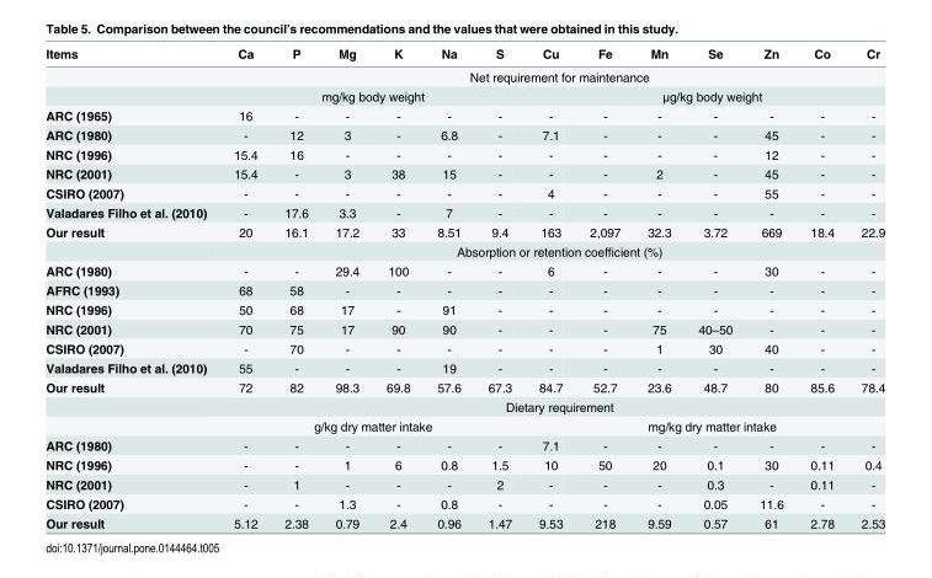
<table><thead><tr><td>Items</td><td>Ca</td><td>P</td><td>Mg</td><td>K</td><td>Na</td><td>S</td><td>Cu</td><td>Fe</td><td>Mn</td><td>Se</td><td>Zn</td><td>Co</td><td>Cr</td></tr></thead><tbody><tr><td></td><td colspan="13">Net requirement for maintenance</td></tr><tr><td></td><td colspan="6">mg/kg body weight</td><td colspan="7">μg/kg body weight</td></tr><tr><td>ARC (1965)</td><td>16</td><td>-</td><td>-</td><td>-</td><td>-</td><td>-</td><td>-</td><td>-</td><td>-</td><td>-</td><td>-</td><td>-</td><td>-</td></tr><tr><td>ARC (1980)</td><td>-</td><td>12</td><td>3</td><td>-</td><td>6.8</td><td>-</td><td>7.1</td><td>-</td><td>-</td><td>-</td><td>45</td><td>-</td><td>-</td></tr><tr><td>NRC (1996)</td><td>15.4</td><td>16</td><td>-</td><td>-</td><td>-</td><td>-</td><td>-</td><td>-</td><td>-</td><td>-</td><td>12</td><td>-</td><td>-</td></tr><tr><td>NRC (2001)</td><td>15.4</td><td>-</td><td>3</td><td>38</td><td>15</td><td>-</td><td>-</td><td>-</td><td>2</td><td>-</td><td>45</td><td>-</td><td>-</td></tr><tr><td>CSIRO (2007)</td><td>-</td><td>-</td><td>-</td><td>-</td><td>-</td><td>-</td><td>4</td><td>-</td><td>-</td><td>-</td><td>55</td><td>-</td><td>-</td></tr><tr><td>Valadares Filho et al. (2010)</td><td>-</td><td>17.6</td><td>3.3</td><td>-</td><td>7</td><td>-</td><td>-</td><td>-</td><td>-</td><td>-</td><td>-</td><td>-</td><td>-</td></tr><tr><td rowspan="2">Our result</td><td>20</td><td>16.1</td><td>17.2</td><td>33</td><td>8.51</td><td>9.4</td><td>163</td><td>2,097</td><td>32.3</td><td>3.72</td><td>669</td><td>18.4</td><td>22.9</td></tr><tr><td colspan="13">Absorption or retention coefficient (%)</td></tr><tr><td>ARC (1980)</td><td>-</td><td>-</td><td>29.4</td><td>100</td><td>-</td><td>-</td><td>6</td><td>-</td><td>-</td><td>-</td><td>30</td><td>-</td><td>-</td></tr><tr><td>AFRC (1993)</td><td>68</td><td>58</td><td>-</td><td>-</td><td>-</td><td>-</td><td>-</td><td>-</td><td>-</td><td>-</td><td>-</td><td>-</td><td>-</td></tr><tr><td>NRC (1996)</td><td>50</td><td>68</td><td>17</td><td>-</td><td>91</td><td>-</td><td>-</td><td>-</td><td>-</td><td>-</td><td>-</td><td>-</td><td>-</td></tr><tr><td>NRC (2001)</td><td>70</td><td>75</td><td>17</td><td>90</td><td>90</td><td>-</td><td>-</td><td>-</td><td>75</td><td>40–50</td><td>-</td><td>-</td><td>-</td></tr><tr><td>CSIRO (2007)</td><td>-</td><td>70</td><td>-</td><td>-</td><td>-</td><td>-</td><td>-</td><td>-</td><td>1</td><td>30</td><td>40</td><td>-</td><td>-</td></tr><tr><td>Valadares Filho et al. (2010)</td><td>55</td><td>-</td><td>-</td><td>-</td><td>19</td><td>-</td><td>-</td><td>-</td><td>-</td><td>-</td><td>-</td><td>-</td><td>-</td></tr><tr><td rowspan="3">Our result</td><td>72</td><td>82</td><td>98.3</td><td>69.8</td><td>57.6</td><td>67.3</td><td>84.7</td><td>52.7</td><td>23.6</td><td>48.7</td><td>80</td><td>85.6</td><td>78.4</td></tr><tr><td colspan="13">Dietary requirement</td></tr><tr><td colspan="6">g/kg dry matter intake</td><td colspan="7">mg/kg dry matter intake</td></tr><tr><td>ARC (1980)</td><td>-</td><td>-</td><td>-</td><td>-</td><td>-</td><td>-</td><td>7.1</td><td>-</td><td>-</td><td>-</td><td>-</td><td>-</td><td>-</td></tr><tr><td>NRC (1996)</td><td>-</td><td>-</td><td>1</td><td>6</td><td>0.8</td><td>1.5</td><td>10</td><td>50</td><td>20</td><td>0.1</td><td>30</td><td>0.11</td><td>0.4</td></tr><tr><td>NRC (2001)</td><td>-</td><td>1</td><td>-</td><td>-</td><td>-</td><td>2</td><td>-</td><td>-</td><td>-</td><td>0.3</td><td>-</td><td>0.11</td><td>-</td></tr><tr><td>CSIRO (2007)</td><td>-</td><td>-</td><td>1.3</td><td>-</td><td>0.8</td><td>-</td><td>-</td><td>-</td><td>-</td><td>0.05</td><td>11.6</td><td>-</td><td>-</td></tr><tr><td>Our result</td><td>5.12</td><td>2.38</td><td>0.79</td><td>2.4</td><td>0.96</td><td>1.47</td><td>9.53</td><td>218</td><td>9.59</td><td>0.57</td><td>61</td><td>2.78</td><td>2.53</td></tr></tbody></table>